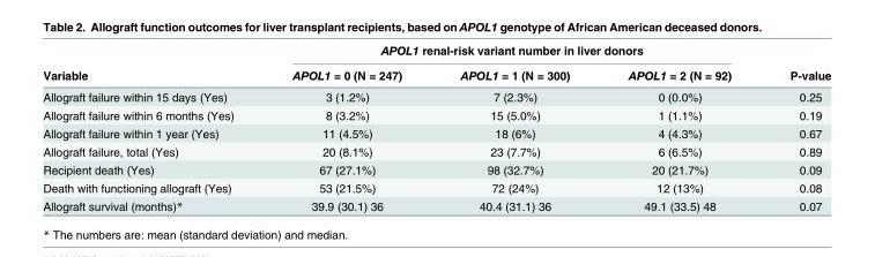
<table><thead><tr><td rowspan="2">Variable</td><td colspan="3">APOL1 renal-risk variant number in liver donors</td><td rowspan="2">P-value</td></tr><tr><td>APOL1 = 0 (N = 247)</td><td>APOL1 = 1 (N = 300)</td><td>APOL1 = 2 (N = 92)</td></tr></thead><tbody><tr><td>Allograft failure within 15 days (Yes)</td><td>3 (1.2%)</td><td>7 (2.3%)</td><td>0 (0.0%)</td><td>0.25</td></tr><tr><td>Allograft failure within 6 months (Yes)</td><td>8 (3.2%)</td><td>15 (5.0%)</td><td>1 (1.1%)</td><td>0.19</td></tr><tr><td>Allograft failure within 1 year (Yes)</td><td>11 (4.5%)</td><td>18 (6%)</td><td>4 (4.3%)</td><td>0.67</td></tr><tr><td>Allograft failure, total (Yes)</td><td>20 (8.1%)</td><td>23 (7.7%)</td><td>6 (6.5%)</td><td>0.89</td></tr><tr><td>Recipient death (Yes)</td><td>67 (27.1%)</td><td>98 (32.7%)</td><td>20 (21.7%)</td><td>0.09</td></tr><tr><td>Death with functioning allograft (Yes)</td><td>53 (21.5%)</td><td>72 (24%)</td><td>12 (13%)</td><td>0.08</td></tr><tr><td>Allograft survival (months)*</td><td>39.9 (30.1) 36</td><td>40.4 (31.1) 36</td><td>49.1 (33.5) 48</td><td>0.07</td></tr></tbody></table>